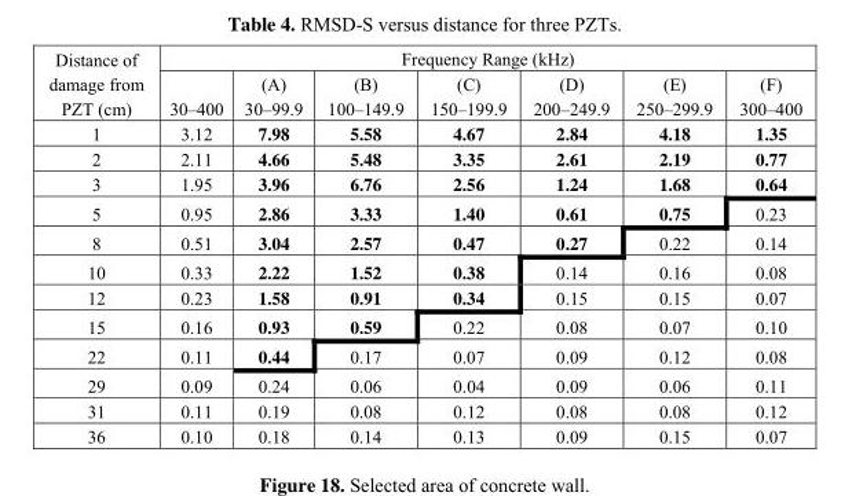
<table><thead><tr><td rowspan="2">Distance of damage from PZT (cm)</td><td colspan="7">Frequency Range (kHz)</td></tr><tr><td>30–400</td><td>(A) 30–99.9</td><td>(B) 100–149.9</td><td>(C) 150–199.9</td><td>(D) 200–249.9</td><td>(E) 250–299.9</td><td>(F) 300–400</td></tr></thead><tbody><tr><td>1</td><td>3.12</td><td>7.98</td><td>5.58</td><td>4.67</td><td>2.84</td><td>4.18</td><td>1.35</td></tr><tr><td>2</td><td>2.11</td><td>4.66</td><td>5.48</td><td>3.35</td><td>2.61</td><td>2.19</td><td>0.77</td></tr><tr><td>3</td><td>1.95</td><td>3.96</td><td>6.76</td><td>2.56</td><td>1.24</td><td>1.68</td><td>0.64</td></tr><tr><td>5</td><td>0.95</td><td>2.86</td><td>3.33</td><td>1.40</td><td>0.61</td><td>0.75</td><td>0.23</td></tr><tr><td>8</td><td>0.51</td><td>3.04</td><td>2.57</td><td>0.47</td><td>0.27</td><td>0.22</td><td>0.14</td></tr><tr><td>10</td><td>0.33</td><td>2.22</td><td>1.52</td><td>0.38</td><td>0.14</td><td>0.16</td><td>0.08</td></tr><tr><td>12</td><td>0.23</td><td>1.58</td><td>0.91</td><td>0.34</td><td>0.15</td><td>0.15</td><td>0.07</td></tr><tr><td>15</td><td>0.16</td><td>0.93</td><td>0.59</td><td>0.22</td><td>0.08</td><td>0.07</td><td>0.10</td></tr><tr><td>22</td><td>0.11</td><td>0.44</td><td>0.17</td><td>0.07</td><td>0.09</td><td>0.12</td><td>0.08</td></tr><tr><td>29</td><td>0.09</td><td>0.24</td><td>0.06</td><td>0.04</td><td>0.09</td><td>0.06</td><td>0.11</td></tr><tr><td>31</td><td>0.11</td><td>0.19</td><td>0.08</td><td>0.12</td><td>0.08</td><td>0.08</td><td>0.12</td></tr><tr><td>36</td><td>0.10</td><td>0.18</td><td>0.14</td><td>0.13</td><td>0.09</td><td>0.15</td><td>0.07</td></tr></tbody></table>